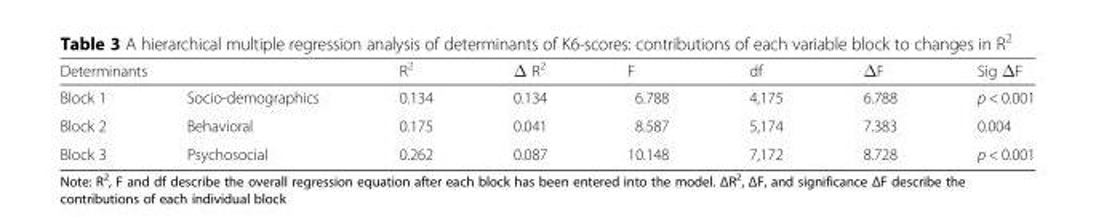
<table><thead><tr><td colspan="2">Determinants</td><td rowspan="2">R<sup>2</sup> 0.134</td><td rowspan="2">Δ R<sup>2</sup> 0.134</td><td rowspan="2">F 6.788</td><td rowspan="2">df 4,175</td><td rowspan="2">ΔF 6.788</td><td rowspan="2">Sig ΔF p &lt; 0.001</td></tr><tr><td>Block 1</td><td>Socio-demographics</td></tr></thead><tbody><tr><td>Block 2</td><td>Behavioral</td><td>0.175</td><td>0.041</td><td>8.587</td><td>5,174</td><td>7.383</td><td>0.004</td></tr><tr><td>Block 3</td><td>Psychosocial</td><td>0.262</td><td>0.087</td><td>10.148</td><td>7,172</td><td>8.728</td><td>p &lt; 0.001</td></tr></tbody></table>